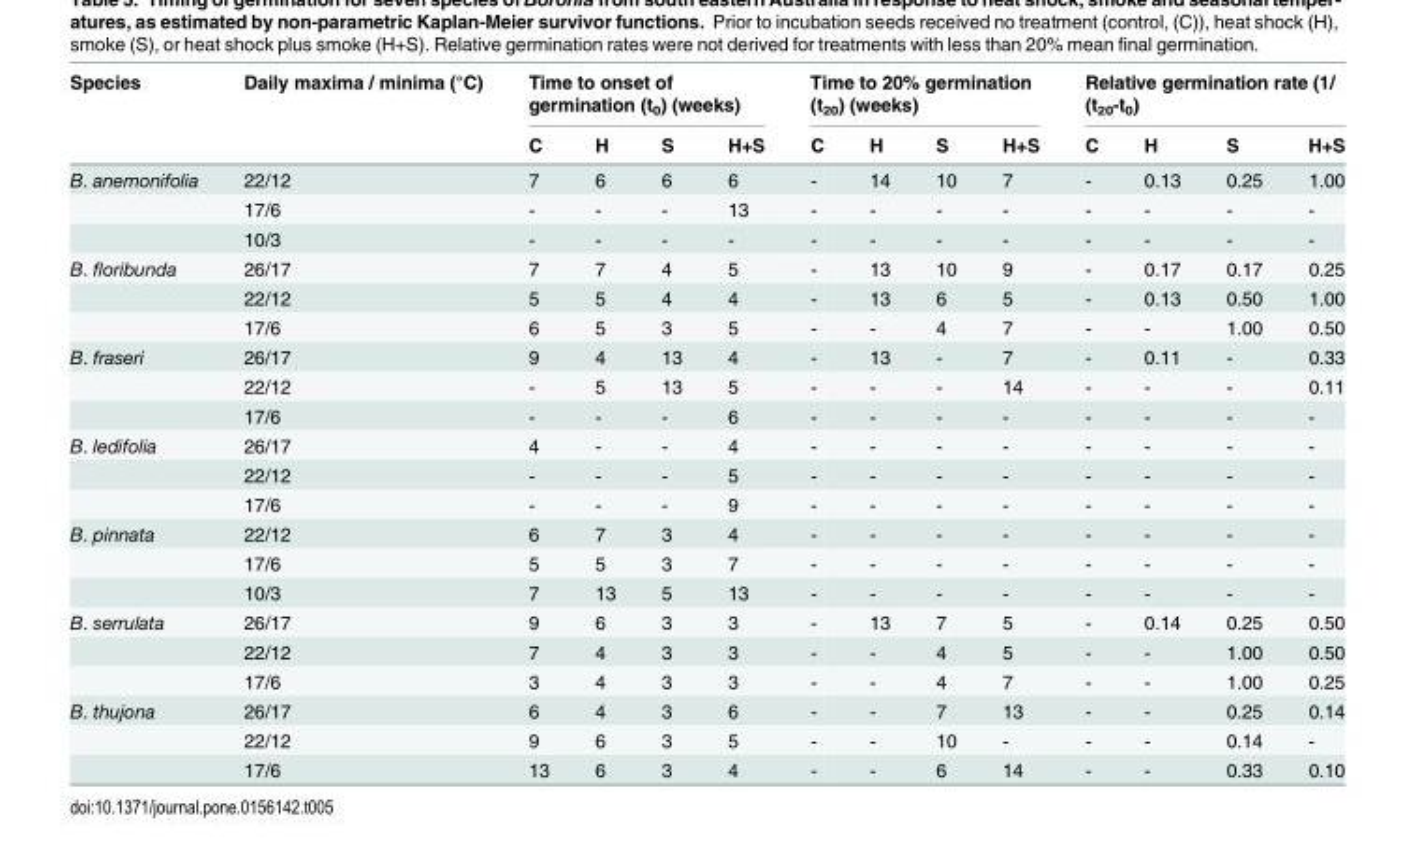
<table><thead><tr><td rowspan="2">Species</td><td rowspan="2">Daily maxima / minima (°C)</td><td colspan="4">Time to onset of germination (t<sub>0</sub>) (weeks)</td><td colspan="4">Time to 20% germination (t<sub>20</sub>) (weeks)</td><td colspan="4">Relative germination rate (1/ (t<sub>20</sub>-t<sub>0</sub>)</td></tr><tr><td>C</td><td>H</td><td>S</td><td>H+S</td><td>C</td><td>H</td><td>S</td><td>H+S</td><td>C</td><td>H</td><td>S</td><td>H+S</td></tr></thead><tbody><tr><td rowspan="3">B. anemonifolia</td><td>22/12</td><td>7</td><td>6</td><td>6</td><td>6</td><td>-</td><td>14</td><td>10</td><td>7</td><td>-</td><td>0.13</td><td>0.25</td><td>1.00</td></tr><tr><td>17/6</td><td>-</td><td>-</td><td>-</td><td>13</td><td>-</td><td>-</td><td>-</td><td>-</td><td>-</td><td>-</td><td>-</td><td>-</td></tr><tr><td>10/3</td><td>-</td><td>-</td><td>-</td><td>-</td><td>-</td><td>-</td><td>-</td><td>-</td><td>-</td><td>-</td><td>-</td><td>-</td></tr><tr><td rowspan="3">B. floribunda</td><td>26/17</td><td>7</td><td>7</td><td>4</td><td>5</td><td>-</td><td>13</td><td>10</td><td>9</td><td>-</td><td>0.17</td><td>0.17</td><td>0.25</td></tr><tr><td>22/12</td><td>5</td><td>5</td><td>4</td><td>4</td><td>-</td><td>13</td><td>6</td><td>5</td><td>-</td><td>0.13</td><td>0.50</td><td>1.00</td></tr><tr><td>17/6</td><td>6</td><td>5</td><td>3</td><td>5</td><td>-</td><td>-</td><td>4</td><td>7</td><td>-</td><td>-</td><td>1.00</td><td>0.50</td></tr><tr><td rowspan="3">B. fraseri</td><td>26/17</td><td>9</td><td>4</td><td>13</td><td>4</td><td>-</td><td>13</td><td>-</td><td>7</td><td>-</td><td>0.11</td><td>-</td><td>0.33</td></tr><tr><td>22/12</td><td>-</td><td>5</td><td>13</td><td>5</td><td>-</td><td>-</td><td>-</td><td>14</td><td>-</td><td>-</td><td>-</td><td>0.11</td></tr><tr><td>17/6</td><td>-</td><td>-</td><td>-</td><td>6</td><td>-</td><td>-</td><td>-</td><td>-</td><td>-</td><td>-</td><td>-</td><td>-</td></tr><tr><td rowspan="3">B. ledifolia</td><td>26/17</td><td>4</td><td>-</td><td>-</td><td>4</td><td>-</td><td>-</td><td>-</td><td>-</td><td>-</td><td>-</td><td>-</td><td>-</td></tr><tr><td>22/12</td><td>-</td><td>-</td><td>-</td><td>5</td><td>-</td><td>-</td><td>-</td><td>-</td><td>-</td><td>-</td><td>-</td><td>-</td></tr><tr><td>17/6</td><td>-</td><td>-</td><td>-</td><td>9</td><td>-</td><td>-</td><td>-</td><td>-</td><td>-</td><td>-</td><td>-</td><td>-</td></tr><tr><td rowspan="3">B. pinnata</td><td>22/12</td><td>6</td><td>7</td><td>3</td><td>4</td><td>-</td><td>-</td><td>-</td><td>-</td><td>-</td><td>-</td><td>-</td><td>-</td></tr><tr><td>17/6</td><td>5</td><td>5</td><td>3</td><td>7</td><td>-</td><td>-</td><td>-</td><td>-</td><td>-</td><td>-</td><td>-</td><td>-</td></tr><tr><td>10/3</td><td>7</td><td>13</td><td>5</td><td>13</td><td>-</td><td>-</td><td>-</td><td>-</td><td>-</td><td>-</td><td>-</td><td>-</td></tr><tr><td rowspan="3">B. serrulata</td><td>26/17</td><td>9</td><td>6</td><td>3</td><td>3</td><td>-</td><td>13</td><td>7</td><td>5</td><td>-</td><td>0.14</td><td>0.25</td><td>0.50</td></tr><tr><td>22/12</td><td>7</td><td>4</td><td>3</td><td>3</td><td>-</td><td>-</td><td>4</td><td>5</td><td>-</td><td>-</td><td>1.00</td><td>0.50</td></tr><tr><td>17/6</td><td>3</td><td>4</td><td>3</td><td>3</td><td>-</td><td>-</td><td>4</td><td>7</td><td>-</td><td>-</td><td>1.00</td><td>0.25</td></tr><tr><td rowspan="3">B. thujona</td><td>26/17</td><td>6</td><td>4</td><td>3</td><td>6</td><td>-</td><td>-</td><td>7</td><td>13</td><td>-</td><td>-</td><td>0.25</td><td>0.14</td></tr><tr><td>22/12</td><td>9</td><td>6</td><td>3</td><td>5</td><td>-</td><td>-</td><td>10</td><td>-</td><td>-</td><td>-</td><td>0.14</td><td>-</td></tr><tr><td>17/6</td><td>13</td><td>6</td><td>3</td><td>4</td><td>-</td><td>-</td><td>6</td><td>14</td><td>-</td><td>-</td><td>0.33</td><td>0.10</td></tr></tbody></table>